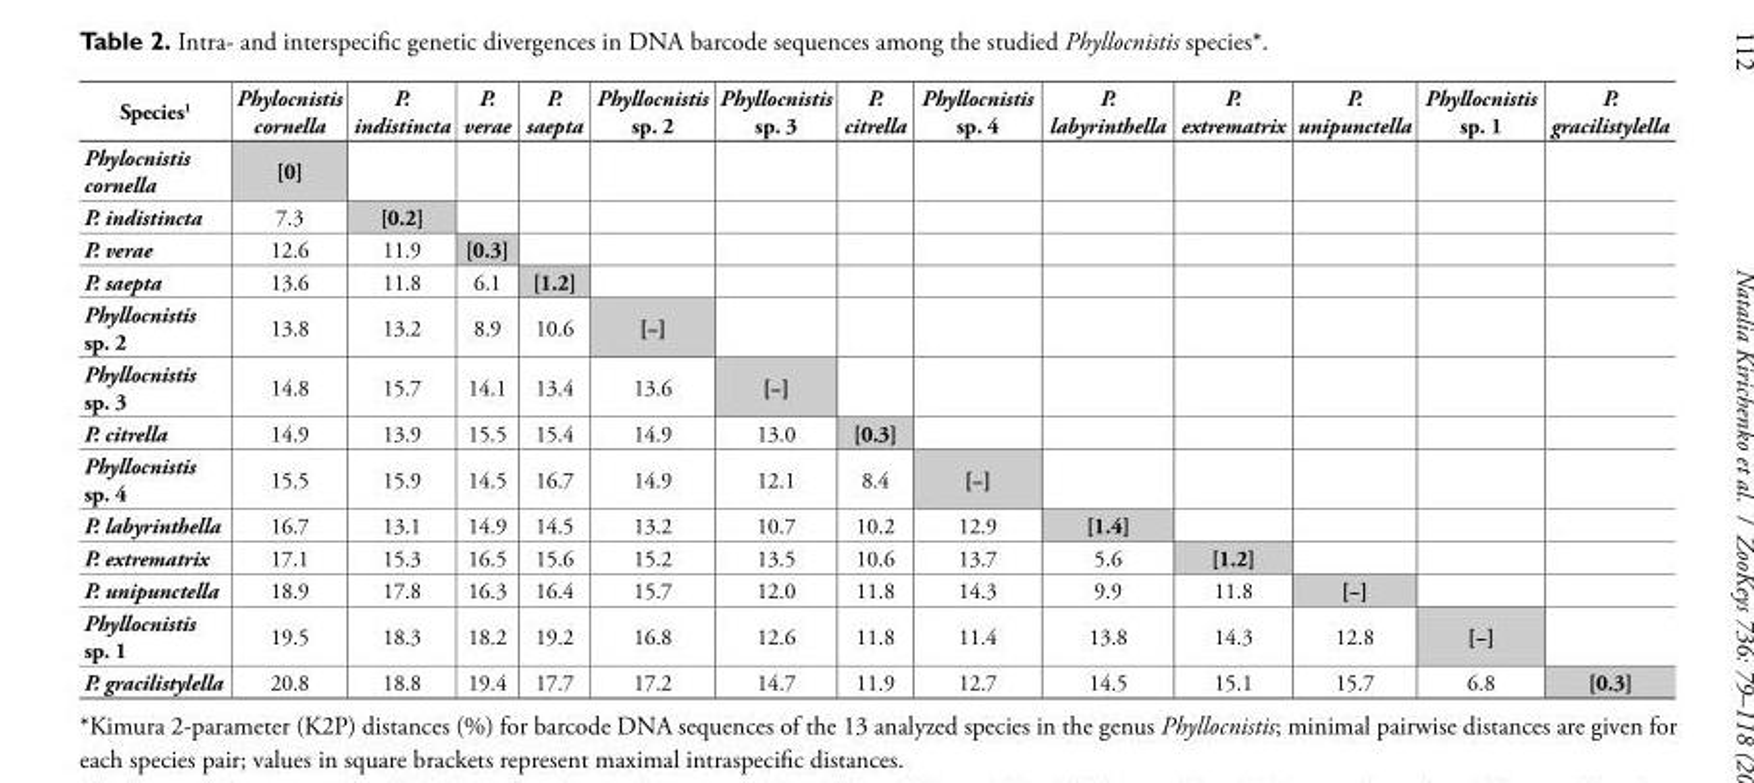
<table><tbody><tr><td>Species<sup>1</sup></td><td>Phylocnistis cornella</td><td>P. indistincta</td><td>P. verae</td><td>P. saepta</td><td>Phyllocnistis sp. 2</td><td>Phyllocnistis sp. 3</td><td>P. citrella</td><td>Phyllocnistis sp. 4</td><td>P. labyrinthella</td><td>P. extrematrix</td><td>P. unipunctella</td><td>Phyllocnistis sp. 1</td><td>P. gracilistylella</td></tr><tr><td>Phylocnistis cornella</td><td>[0]</td><td></td><td></td><td></td><td></td><td></td><td></td><td></td><td></td><td></td><td></td><td></td><td></td></tr><tr><td>P. indistincta</td><td>7.3</td><td>[0.2]</td><td></td><td></td><td></td><td></td><td></td><td></td><td></td><td></td><td></td><td></td><td></td></tr><tr><td>P. verae</td><td>12.6</td><td>11.9</td><td>[0.3]</td><td></td><td></td><td></td><td></td><td></td><td></td><td></td><td></td><td></td><td></td></tr><tr><td>P. saepta</td><td>13.6</td><td>11.8</td><td>6.1</td><td>[1.2]</td><td></td><td></td><td></td><td></td><td></td><td></td><td></td><td></td><td></td></tr><tr><td>Phyllocnistis sp. 2</td><td>13.8</td><td>13.2</td><td>8.9</td><td>10.6</td><td>[−]</td><td></td><td></td><td></td><td></td><td></td><td></td><td></td><td></td></tr><tr><td>Phyllocnistis sp. 3</td><td>14.8</td><td>15.7</td><td>14.1</td><td>13.4</td><td>13.6</td><td>[−]</td><td></td><td></td><td></td><td></td><td></td><td></td><td></td></tr><tr><td>P. citrella</td><td>14.9</td><td>13.9</td><td>15.5</td><td>15.4</td><td>14.9</td><td>13.0</td><td>[0.3]</td><td></td><td></td><td></td><td></td><td></td><td></td></tr><tr><td>Phyllocnistis sp. 4</td><td>15.5</td><td>15.9</td><td>14.5</td><td>16.7</td><td>14.9</td><td>12.1</td><td>8.4</td><td>[−]</td><td></td><td></td><td></td><td></td><td></td></tr><tr><td>P. labyrinthella</td><td>16.7</td><td>13.1</td><td>14.9</td><td>14.5</td><td>13.2</td><td>10.7</td><td>10.2</td><td>12.9</td><td>[1.4]</td><td></td><td></td><td></td><td></td></tr><tr><td>P. extrematrix</td><td>17.1</td><td>15.3</td><td>16.5</td><td>15.6</td><td>15.2</td><td>13.5</td><td>10.6</td><td>13.7</td><td>5.6</td><td>[1.2]</td><td></td><td></td><td></td></tr><tr><td>P. unipunctella</td><td>18.9</td><td>17.8</td><td>16.3</td><td>16.4</td><td>15.7</td><td>12.0</td><td>11.8</td><td>14.3</td><td>9.9</td><td>11.8</td><td>[−]</td><td></td><td></td></tr><tr><td>Phyllocnistis sp. 1</td><td>19.5</td><td>18.3</td><td>18.2</td><td>19.2</td><td>16.8</td><td>12.6</td><td>11.8</td><td>11.4</td><td>13.8</td><td>14.3</td><td>12.8</td><td>[−]</td><td></td></tr><tr><td>P. gracilistylella</td><td>20.8</td><td>18.8</td><td>19.4</td><td>17.7</td><td>17.2</td><td>14.7</td><td>11.9</td><td>12.7</td><td>14.5</td><td>15.1</td><td>15.7</td><td>6.8</td><td>[0.3]</td></tr></tbody></table>